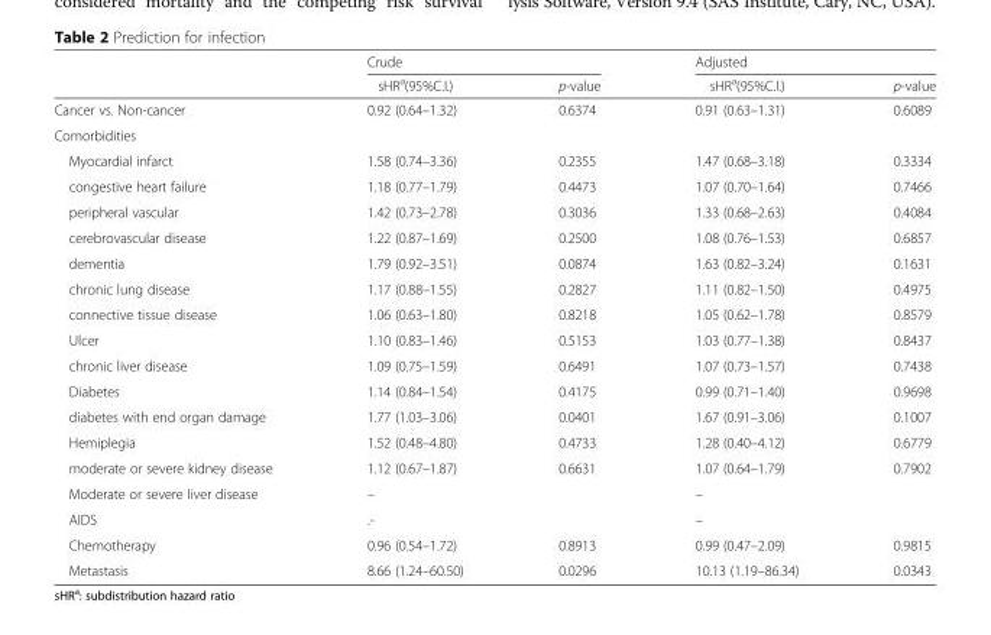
<table><thead><tr><td rowspan="2"></td><td colspan="2">Crude</td><td colspan="2">Adjusted</td></tr><tr><td>sHR<sup>a</sup>(95%C.I.)</td><td>p-value</td><td>sHR<sup>a</sup>(95%C.I.)</td><td>p-value</td></tr></thead><tbody><tr><td>Cancer vs. Non-cancer</td><td>0.92 (0.64–1.32)</td><td>0.6374</td><td>0.91 (0.63–1.31)</td><td>0.6089</td></tr><tr><td colspan="5">Comorbidities</td></tr><tr><td>Myocardial infarct</td><td>1.58 (0.74–3.36)</td><td>0.2355</td><td>1.47 (0.68–3.18)</td><td>0.3334</td></tr><tr><td>congestive heart failure</td><td>1.18 (0.77–1.79)</td><td>0.4473</td><td>1.07 (0.70–1.64)</td><td>0.7466</td></tr><tr><td>peripheral vascular</td><td>1.42 (0.73–2.78)</td><td>0.3036</td><td>1.33 (0.68–2.63)</td><td>0.4084</td></tr><tr><td>cerebrovascular disease</td><td>1.22 (0.87–1.69)</td><td>0.2500</td><td>1.08 (0.76–1.53)</td><td>0.6857</td></tr><tr><td>dementia</td><td>1.79 (0.92–3.51)</td><td>0.0874</td><td>1.63 (0.82–3.24)</td><td>0.1631</td></tr><tr><td>chronic lung disease</td><td>1.17 (0.88–1.55)</td><td>0.2827</td><td>1.11 (0.82–1.50)</td><td>0.4975</td></tr><tr><td>connective tissue disease</td><td>1.06 (0.63–1.80)</td><td>0.8218</td><td>1.05 (0.62–1.78)</td><td>0.8579</td></tr><tr><td>Ulcer</td><td>1.10 (0.83–1.46)</td><td>0.5153</td><td>1.03 (0.77–1.38)</td><td>0.8437</td></tr><tr><td>chronic liver disease</td><td>1.09 (0.75–1.59)</td><td>0.6491</td><td>1.07 (0.73–1.57)</td><td>0.7438</td></tr><tr><td>Diabetes</td><td>1.14 (0.84–1.54)</td><td>0.4175</td><td>0.99 (0.71–1.40)</td><td>0.9698</td></tr><tr><td>diabetes with end organ damage</td><td>1.77 (1.03–3.06)</td><td>0.0401</td><td>1.67 (0.91–3.06)</td><td>0.1007</td></tr><tr><td>Hemiplegia</td><td>1.52 (0.48–4.80)</td><td>0.4733</td><td>1.28 (0.40–4.12)</td><td>0.6779</td></tr><tr><td>moderate or severe kidney disease</td><td>1.12 (0.67–1.87)</td><td>0.6631</td><td>1.07 (0.64–1.79)</td><td>0.7902</td></tr><tr><td>Moderate or severe liver disease</td><td>–</td><td></td><td>–</td><td></td></tr><tr><td>AIDS</td><td>.-</td><td></td><td>–</td><td></td></tr><tr><td>Chemotherapy</td><td>0.96 (0.54–1.72)</td><td>0.8913</td><td>0.99 (0.47–2.09)</td><td>0.9815</td></tr><tr><td>Metastasis</td><td>8.66 (1.24–60.50)</td><td>0.0296</td><td>10.13 (1.19–86.34)</td><td>0.0343</td></tr></tbody></table>